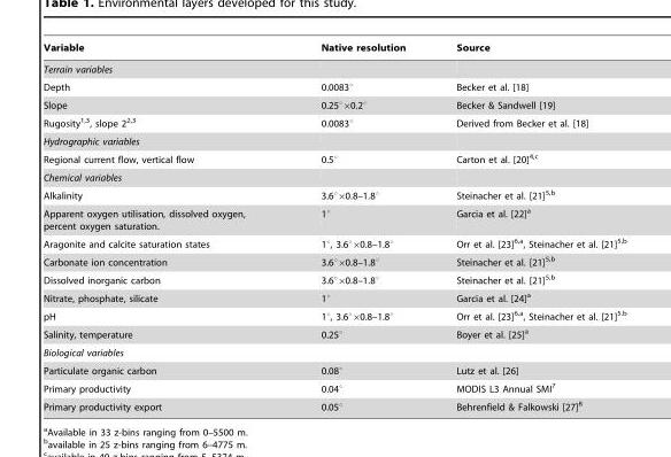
<table><thead><tr><td>Variable</td><td>Native resolution</td><td>Source</td></tr></thead><tbody><tr><td colspan="3">Terrain variables</td></tr><tr><td>Depth</td><td>0.0083°</td><td>Becker et al. [18]</td></tr><tr><td>Slope</td><td>0.25°×0.2°</td><td>Becker &amp; Sandwell [19]</td></tr><tr><td>Rugosity<sup>1,</sup>3, slope 2<sup>2,</sup>3</td><td>0.0083°</td><td>Derived from Becker et al. [18]</td></tr><tr><td colspan="3">Hydrographic variables</td></tr><tr><td>Regional current flow, vertical flow</td><td>0.5°</td><td>Carton et al. [20]4<sup>,</sup>c</td></tr><tr><td colspan="3">Chemical variables</td></tr><tr><td>Alkalinity</td><td>3.6°×0.8–1.8°</td><td>Steinacher et al. [21]5<sup>,</sup>b</td></tr><tr><td>Apparent oxygen utilisation, dissolved oxygen, percent oxygen saturation.</td><td>1°</td><td>Garcia et al. [22]a</td></tr><tr><td>Aragonite and calcite saturation states</td><td>1°, 3.6°×0.8–1.8°</td><td>Orr et al. [23]6<sup>,</sup>a, Steinacher et al. [21]5<sup>,</sup>b</td></tr><tr><td>Carbonate ion concentration</td><td>3.6°×0.8–1.8°</td><td>Steinacher et al. [21]5<sup>,</sup>b</td></tr><tr><td>Dissolved inorganic carbon</td><td>3.6°×0.8–1.8°</td><td>Steinacher et al. [21]5<sup>,</sup>b</td></tr><tr><td>Nitrate, phosphate, silicate</td><td>1°</td><td>Garcia et al. [24]a</td></tr><tr><td>pH</td><td>1°, 3.6°×0.8–1.8°</td><td>Orr et al. [23]6<sup>,</sup>a, Steinacher et al. [21]5<sup>.</sup>b</td></tr><tr><td>Salinity, temperature</td><td>0.25°</td><td>Boyer et al. [25]a</td></tr><tr><td colspan="3">Biological variables</td></tr><tr><td>Particulate organic carbon</td><td>0.08°</td><td>Lutz et al. [26]</td></tr><tr><td>Primary productivity</td><td>0.04°</td><td>MODIS L3 Annual SMI<sup>7</sup></td></tr><tr><td>Primary productivity export</td><td>0.05°</td><td>Behrenfield &amp; Falkowski [27]8</td></tr></tbody></table>